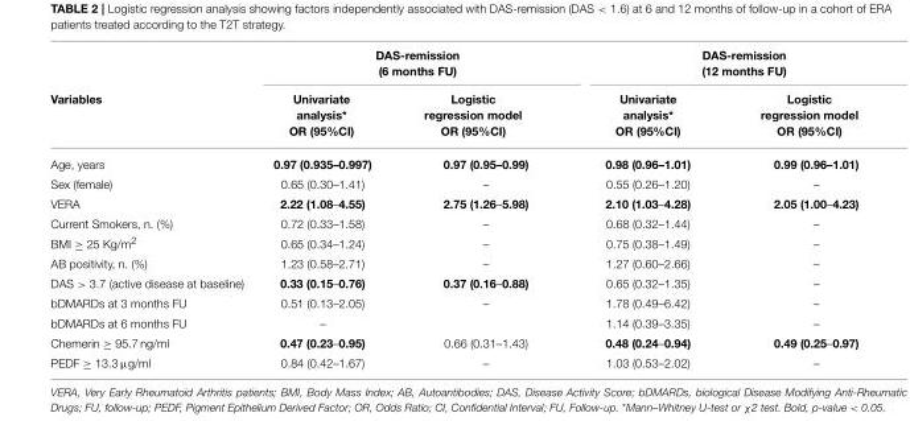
<table><thead><tr><td rowspan="2">Variables</td><td colspan="2">DAS-remission (6 months FU)</td><td colspan="2">DAS-remission (12 months FU)</td></tr><tr><td>Univariate analysis* OR (95%CI)</td><td>Logistic regression model OR (95%CI)</td><td>Univariate analysis* OR (95%CI)</td><td>Logistic regression model OR (95%CI)</td></tr></thead><tbody><tr><td>Age, years</td><td>0.97 (0.935–0.997)</td><td>0.97 (0.95–0.99)</td><td>0.98 (0.96–1.01)</td><td>0.99 (0.96–1.01)</td></tr><tr><td>Sex (female)</td><td>0.65 (0.30–1.41)</td><td>–</td><td>0.55 (0.26–1.20)</td><td>–</td></tr><tr><td>VERA</td><td>2.22 (1.08–4.55)</td><td>2.75 (1.26–5.98)</td><td>2.10 (1.03–4.28)</td><td>2.05 (1.00–4.23)</td></tr><tr><td>Current Smokers, n. (%)</td><td>0.72 (0.33–1.58)</td><td>–</td><td>0.68 (0.32–1.44)</td><td>–</td></tr><tr><td>BMI ≥ 25 Kg/m<sup>2</sup></td><td>0.65 (0.34–1.24)</td><td>–</td><td>0.75 (0.38–1.49)</td><td>–</td></tr><tr><td>AB positivity, n. (%)</td><td>1.23 (0.58–2.71)</td><td>–</td><td>1.27 (0.60–2.66)</td><td>–</td></tr><tr><td>DAS &gt; 3.7 (active disease at baseline)</td><td>0.33 (0.15–0.76)</td><td>0.37 (0.16–0.88)</td><td>0.65 (0.32–1.35)</td><td>–</td></tr><tr><td>bDMARDs at 3 months FU</td><td>0.51 (0.13–2.05)</td><td>–</td><td>1.78 (0.49–6.42)</td><td>–</td></tr><tr><td>bDMARDs at 6 months FU</td><td>–</td><td></td><td>1.14 (0.39–3.35)</td><td>–</td></tr><tr><td>Chemerin ≥ 95.7 ng/ml</td><td>0.47 (0.23–0.95)</td><td>0.66 (0.31–1.43)</td><td>0.48 (0.24–0.94)</td><td>0.49 (0.25–0.97)</td></tr><tr><td>PEDF ≥ 13.3 µg/ml</td><td>0.84 (0.42–1.67)</td><td>–</td><td>1.03 (0.53–2.02)</td><td>–</td></tr></tbody></table>